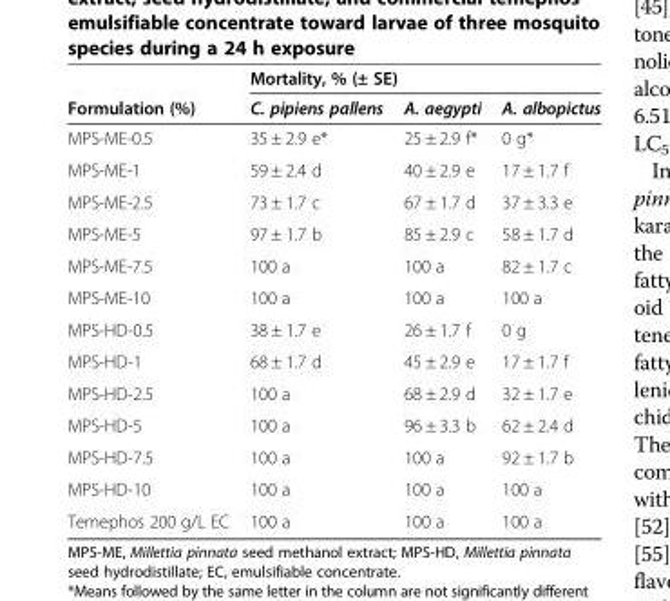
<table><thead><tr><td rowspan="2">Formulation (%)</td><td colspan="3">Mortality, % (± SE)</td></tr><tr><td>C. pipiens pallens</td><td>A. aegypti</td><td>A. albopictus</td></tr></thead><tbody><tr><td>MPS-ME-0.5</td><td>35 ± 2.9 e*</td><td>25 ± 2.9 f*</td><td>0 g*</td></tr><tr><td>MPS-ME-1</td><td>59 ± 2.4 d</td><td>40 ± 2.9 e</td><td>17 ± 1.7 f</td></tr><tr><td>MPS-ME-2.5</td><td>73 ± 1.7 c</td><td>67 ± 1.7 d</td><td>37 ± 3.3 e</td></tr><tr><td>MPS-ME-5</td><td>97 ± 1.7 b</td><td>85 ± 2.9 c</td><td>58 ± 1.7 d</td></tr><tr><td>MPS-ME-7.5</td><td>100 a</td><td>100 a</td><td>82 ± 1.7 c</td></tr><tr><td>MPS-ME-10</td><td>100 a</td><td>100 a</td><td>100 a</td></tr><tr><td>MPS-HD-0.5</td><td>38 ± 1.7 e</td><td>26 ± 1.7 f</td><td>0 g</td></tr><tr><td>MPS-HD-1</td><td>68 ± 1.7 d</td><td>45 ± 2.9 e</td><td>17 ± 1.7 f</td></tr><tr><td>MPS-HD-2.5</td><td>100 a</td><td>68 ± 2.9 d</td><td>32 ± 1.7 e</td></tr><tr><td>MPS-HD-5</td><td>100 a</td><td>96 ± 3.3 b</td><td>62 ± 2.4 d</td></tr><tr><td>MPS-HD-7.5</td><td>100 a</td><td>100 a</td><td>92 ± 1.7 b</td></tr><tr><td>MPS-HD-10</td><td>100 a</td><td>100 a</td><td>100 a</td></tr><tr><td>Temephos 200 g/L EC</td><td>100 a</td><td>100 a</td><td>100 a</td></tr></tbody></table>